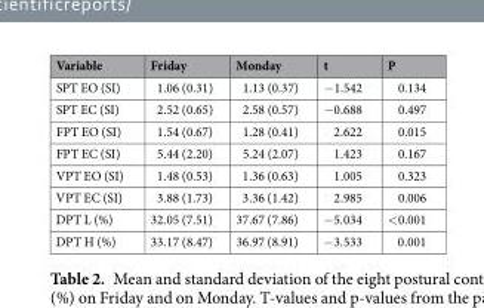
<table><thead><tr><td>Variable</td><td>Friday</td><td>Monday</td><td>t</td><td>P</td></tr></thead><tbody><tr><td>SPT EO (SI)</td><td>1.06 (0.31)</td><td>1.13 (0.37)</td><td>−1.542</td><td>0.134</td></tr><tr><td>SPT EC (SI)</td><td>2.52 (0.65)</td><td>2.58 (0.57)</td><td>−0.688</td><td>0.497</td></tr><tr><td>FPT EO (SI)</td><td>1.54 (0.67)</td><td>1.28 (0.41)</td><td>2.622</td><td>0.015</td></tr><tr><td>FPT EC (SI)</td><td>5.44 (2.20)</td><td>5.24 (2.07)</td><td>1.423</td><td>0.167</td></tr><tr><td>VPT EO (SI)</td><td>1.48 (0.53)</td><td>1.36 (0.63)</td><td>1.005</td><td>0.323</td></tr><tr><td>VPT EC (SI)</td><td>3.88 (1.73)</td><td>3.36 (1.42)</td><td>2.985</td><td>0.006</td></tr><tr><td>DPT L (%)</td><td>32.05 (7.51)</td><td>37.67 (7.86)</td><td>−5.034</td><td>&lt;0.001</td></tr><tr><td>DPT H (%)</td><td>33.17 (8.47)</td><td>36.97 (8.91)</td><td>−3.533</td><td>0.001</td></tr></tbody></table>